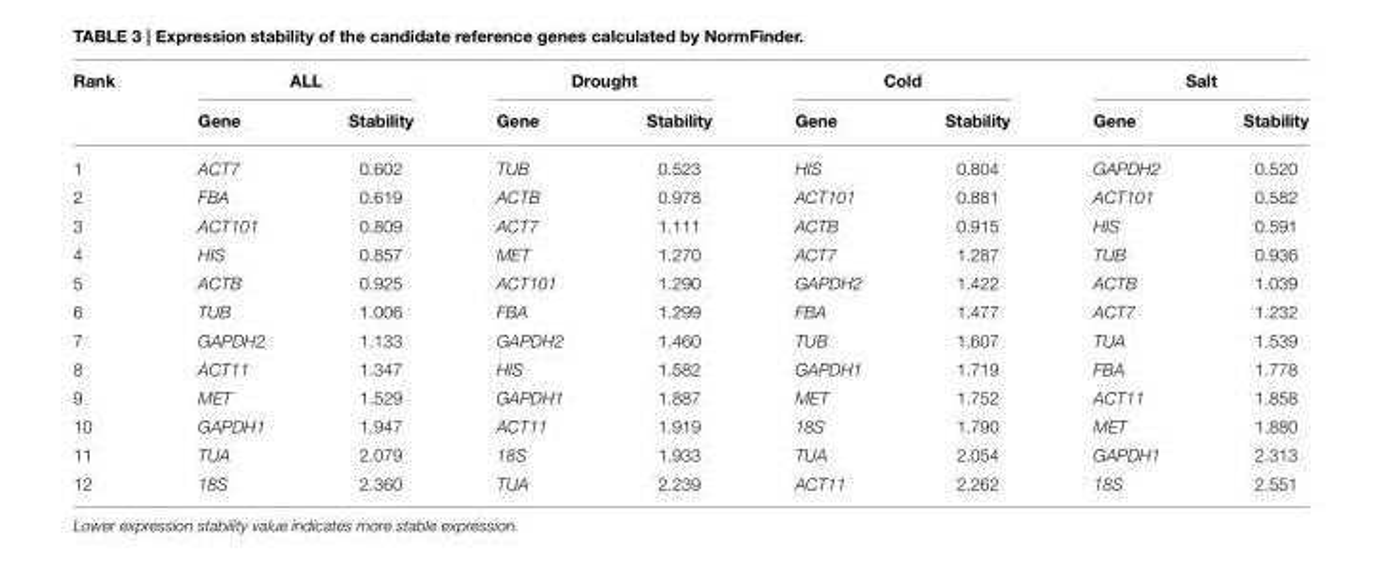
<table><thead><tr><td rowspan="2">Rank</td><td colspan="2">ALL</td><td colspan="2">Drought</td><td colspan="2">Cold</td><td colspan="2">Salt</td></tr><tr><td>Gene</td><td>Stability</td><td>Gene</td><td>Stability</td><td>Gene</td><td>Stability</td><td>Gene</td><td>Stability</td></tr></thead><tbody><tr><td>1</td><td>ACT7</td><td>0.602</td><td>TUB</td><td>0.523</td><td>HIS</td><td>0.804</td><td>GAPDH2</td><td>0.520</td></tr><tr><td>2</td><td>FBA</td><td>0.619</td><td>ACTB</td><td>0.978</td><td>ACT101</td><td>0.881</td><td>ACT101</td><td>0.582</td></tr><tr><td>3</td><td>ACT101</td><td>0.809</td><td>ACT7</td><td>1.111</td><td>ACTB</td><td>0.915</td><td>HIS</td><td>0.591</td></tr><tr><td>4</td><td>HIS</td><td>0.857</td><td>MET</td><td>1.270</td><td>ACT7</td><td>1.287</td><td>TUB</td><td>0.936</td></tr><tr><td>5</td><td>ACTB</td><td>0.925</td><td>ACT101</td><td>1.290</td><td>GAPDH2</td><td>1.422</td><td>ACTB</td><td>1.039</td></tr><tr><td>6</td><td>TUB</td><td>1.006</td><td>FBA</td><td>1.299</td><td>FBA</td><td>1.477</td><td>ACT7</td><td>1.232</td></tr><tr><td>7</td><td>GAPDH2</td><td>1.133</td><td>GAPDH2</td><td>1.460</td><td>TUB</td><td>1.607</td><td>TUA</td><td>1.539</td></tr><tr><td>8</td><td>ACT11</td><td>1.347</td><td>HIS</td><td>1.582</td><td>GAPDH1</td><td>1.719</td><td>FBA</td><td>1.778</td></tr><tr><td>9</td><td>MET</td><td>1.529</td><td>GAPDH1</td><td>1.887</td><td>MET</td><td>1.752</td><td>ACT11</td><td>1.858</td></tr><tr><td>10</td><td>GAPDH1</td><td>1.947</td><td>ACT11</td><td>1.919</td><td>18S</td><td>1.790</td><td>MET</td><td>1.880</td></tr><tr><td>11</td><td>TUA</td><td>2.079</td><td>18S</td><td>1.933</td><td>TUA</td><td>2.054</td><td>GAPDH1</td><td>2.313</td></tr><tr><td>12</td><td>18S</td><td>2.360</td><td>TUA</td><td>2.239</td><td>ACT11</td><td>2.262</td><td>18S</td><td>2.551</td></tr></tbody></table>